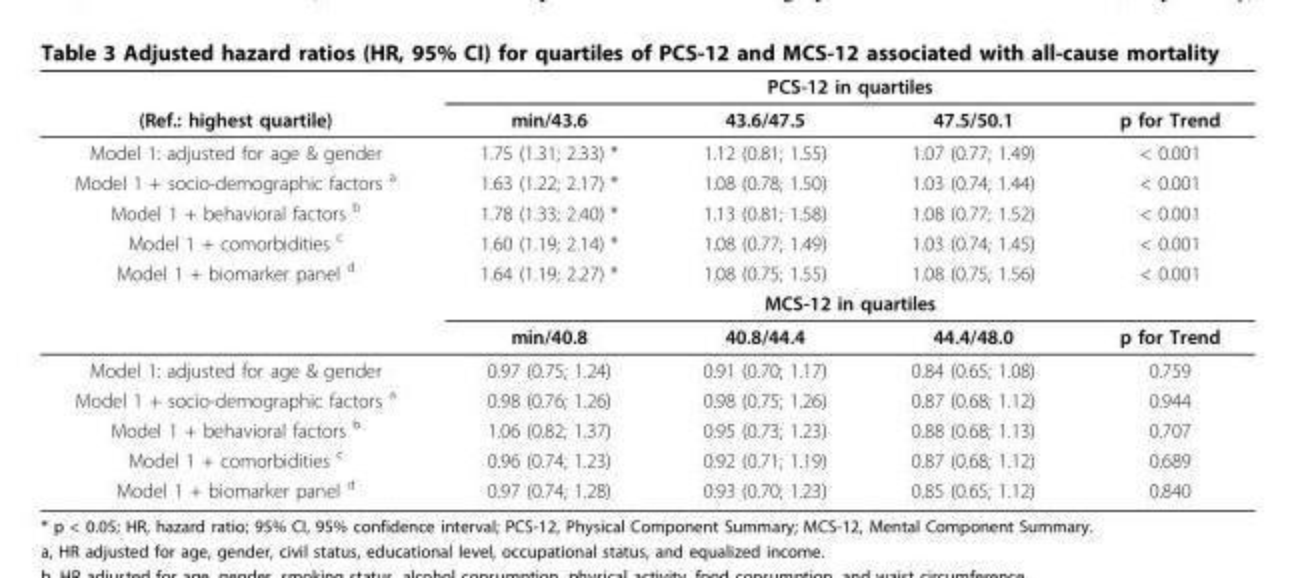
<table><thead><tr><td rowspan="2">(Ref.: highest quartile)</td><td colspan="4">PCS-12 in quartiles</td></tr><tr><td>min/43.6</td><td>43.6/47.5</td><td>47.5/50.1</td><td>p for Trend</td></tr></thead><tbody><tr><td>Model 1: adjusted for age &amp; gender</td><td>1.75 (1.31; 2.33) *</td><td>1.12 (0.81; 1.55)</td><td>1.07 (0.77; 1.49)</td><td>&lt; 0.001</td></tr><tr><td>Model 1 + socio-demographic factors <sup>a</sup></td><td>1.63 (1.22; 2.17) *</td><td>1.08 (0.78; 1.50)</td><td>1.03 (0.74; 1.44)</td><td>&lt; 0.001</td></tr><tr><td>Model 1 + behavioral factors <sup>b</sup></td><td>1.78 (1.33; 2.40) *</td><td>1.13 (0.81; 1.58)</td><td>1.08 (0.77; 1.52)</td><td>&lt; 0.001</td></tr><tr><td>Model 1 + comorbidities <sup>c</sup></td><td>1.60 (1.19; 2.14) *</td><td>1.08 (0.77; 1.49)</td><td>1.03 (0.74; 1.45)</td><td>&lt; 0.001</td></tr><tr><td rowspan="3">Model 1 + biomarker panel <sup>d</sup></td><td>1.64 (1.19; 2.27) *</td><td>1.08 (0.75; 1.55)</td><td>1.08 (0.75; 1.56)</td><td>&lt; 0.001</td></tr><tr><td colspan="4">MCS-12 in quartiles</td></tr><tr><td>min/40.8</td><td>40.8/44.4</td><td>44.4/48.0</td><td>p for Trend</td></tr><tr><td>Model 1: adjusted for age &amp; gender</td><td>0.97 (0.75; 1.24)</td><td>0.91 (0.70; 1.17)</td><td>0.84 (0.65; 1.08)</td><td>0.759</td></tr><tr><td>Model 1 + socio-demographic factors <sup>a</sup></td><td>0.98 (0.76; 1.26)</td><td>0.98 (0.75; 1.26)</td><td>0.87 (0.68; 1.12)</td><td>0.944</td></tr><tr><td>Model 1 + behavioral factors <sup>b</sup></td><td>1.06 (0.82; 1.37)</td><td>0.95 (0.73; 1.23)</td><td>0.88 (0.68; 1.13)</td><td>0.707</td></tr><tr><td>Model 1 + comorbidities <sup>c</sup></td><td>0.96 (0.74; 1.23)</td><td>0.92 (0.71; 1.19)</td><td>0.87 (0.68; 1.12)</td><td>0.689</td></tr><tr><td>Model 1 + biomarker panel <sup>d</sup></td><td>0.97 (0.74; 1.28)</td><td>0.93 (0.70; 1.23)</td><td>0.85 (0.65; 1.12)</td><td>0.840</td></tr></tbody></table>